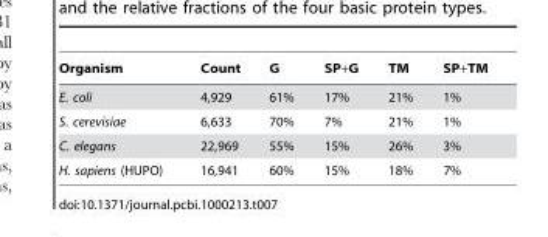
<table><thead><tr><td>Organism</td><td>Count</td><td>G</td><td>SP+G</td><td>TM</td><td>SP+TM</td></tr></thead><tbody><tr><td>E. coli</td><td>4,929</td><td>61%</td><td>17%</td><td>21%</td><td>1%</td></tr><tr><td>S. cerevisiae</td><td>6,633</td><td>70%</td><td>7%</td><td>21%</td><td>1%</td></tr><tr><td>C. elegans</td><td>22,969</td><td>55%</td><td>15%</td><td>26%</td><td>3%</td></tr><tr><td>H. sapiens (HUPO)</td><td>16,941</td><td>60%</td><td>15%</td><td>18%</td><td>7%</td></tr></tbody></table>